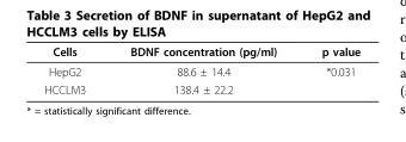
<table><thead><tr><td>Cells</td><td>BDNF concentration (pg/ml)</td><td>p value</td></tr></thead><tbody><tr><td>HepG2</td><td>88.6 ± 14.4</td><td>*0.031</td></tr><tr><td>HCCLM3</td><td>138.4 ± 22.2</td><td></td></tr></tbody></table>